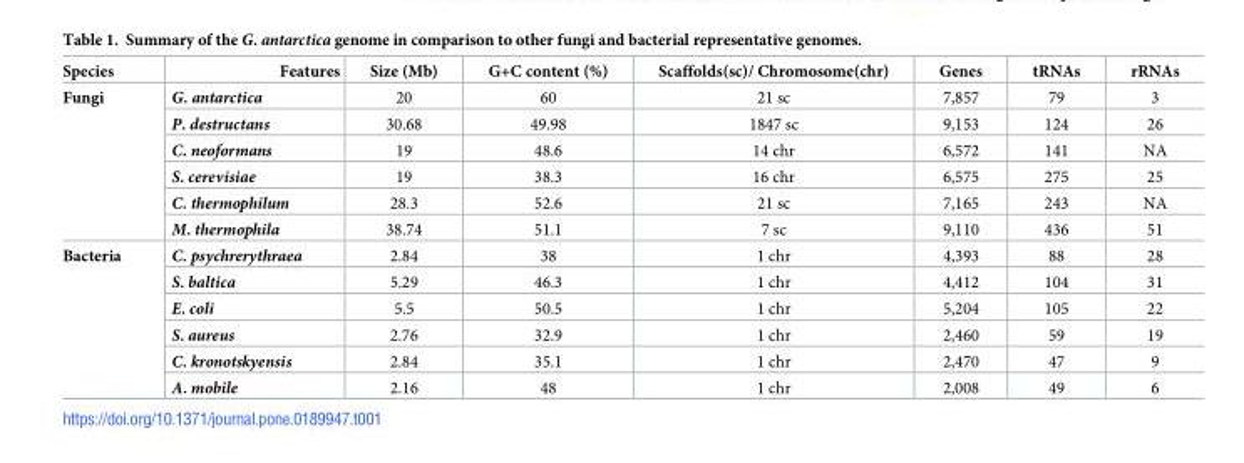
<table><thead><tr><td>Species</td><td>Features</td><td>Size (Mb)</td><td>G+C content (%)</td><td>Scaffolds(sc)/ Chromosome(chr)</td><td>Genes</td><td>tRNAs</td><td>rRNAs</td></tr></thead><tbody><tr><td rowspan="6">Fungi</td><td>G. antarctica</td><td>20</td><td>60</td><td>21 sc</td><td>7,857</td><td>79</td><td>3</td></tr><tr><td>P. destructans</td><td>30.68</td><td>49.98</td><td>1847 sc</td><td>9,153</td><td>124</td><td>26</td></tr><tr><td>C. neoformans</td><td>19</td><td>48.6</td><td>14 chr</td><td>6,572</td><td>141</td><td>NA</td></tr><tr><td>S. cerevisiae</td><td>19</td><td>38.3</td><td>16 chr</td><td>6,575</td><td>275</td><td>25</td></tr><tr><td>C. thermophilum</td><td>28.3</td><td>52.6</td><td>21 sc</td><td>7,165</td><td>243</td><td>NA</td></tr><tr><td>M. thermophila</td><td>38.74</td><td>51.1</td><td>7 sc</td><td>9,110</td><td>436</td><td>51</td></tr><tr><td rowspan="6">Bacteria</td><td>C. psychrerythraea</td><td>2.84</td><td>38</td><td>1 chr</td><td>4,393</td><td>88</td><td>28</td></tr><tr><td>S. baltica</td><td>5.29</td><td>46.3</td><td>1 chr</td><td>4,412</td><td>104</td><td>31</td></tr><tr><td>E. coli</td><td>5.5</td><td>50.5</td><td>1 chr</td><td>5,204</td><td>105</td><td>22</td></tr><tr><td>S. aureus</td><td>2.76</td><td>32.9</td><td>1 chr</td><td>2,460</td><td>59</td><td>19</td></tr><tr><td>C. kronotskyensis</td><td>2.84</td><td>35.1</td><td>1 chr</td><td>2,470</td><td>47</td><td>9</td></tr><tr><td>A. mobile</td><td>2.16</td><td>48</td><td>1 chr</td><td>2,008</td><td>49</td><td>6</td></tr></tbody></table>